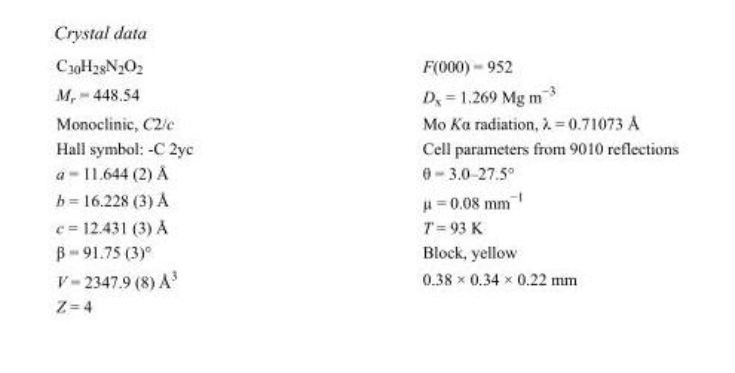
<table><tbody><tr><td>C<sub>30</sub>H<sub>28</sub>N<sub>2</sub>O<sub>2</sub></td><td>F(000) = 952</td></tr><tr><td>M<sub>r</sub> = 448.54</td><td>D<sub>x</sub> = 1.269 Mg m<sup>−3</sup></td></tr><tr><td>Monoclinic, C2/c</td><td>Mo Kα radiation, λ = 0.71073 Å</td></tr><tr><td>Hall symbol: -C 2yc</td><td>Cell parameters from 9010 reflections</td></tr><tr><td>a = 11.644 (2) Å</td><td>θ = 3.0–27.5°</td></tr><tr><td>b = 16.228 (3) Å</td><td>µ = 0.08 mm<sup>−1</sup></td></tr><tr><td>c = 12.431 (3) Å</td><td>T = 93 K</td></tr><tr><td>β = 91.75 (3)°</td><td>Block, yellow</td></tr><tr><td>V = 2347.9 (8) Å<sup>3</sup></td><td>0.38 × 0.34 × 0.22 mm</td></tr><tr><td>Z = 4</td><td></td></tr></tbody></table>